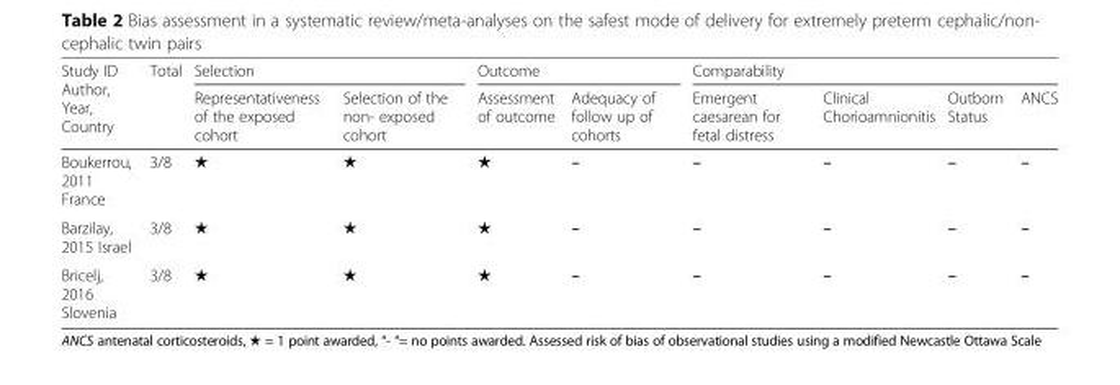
<table><thead><tr><td rowspan="2">Study ID Author, Year, Country</td><td rowspan="2">Total</td><td colspan="2">Selection</td><td colspan="2">Outcome</td><td colspan="4">Comparability</td></tr><tr><td>Representativeness of the exposed cohort</td><td>Selection of the non- exposed cohort</td><td>Assessment of outcome</td><td>Adequacy of follow up of cohorts</td><td>Emergent caesarean for fetal distress</td><td>Clinical Chorioamnionitis</td><td>Outborn Status</td><td>ANCS</td></tr></thead><tbody><tr><td>Boukerrou, 2011 France</td><td>3/8</td><td>★</td><td>★</td><td>★</td><td>–</td><td>–</td><td>–</td><td>–</td><td>–</td></tr><tr><td>Barzilay, 2015 Israel</td><td>3/8</td><td>★</td><td>★</td><td>★</td><td>–</td><td>–</td><td>–</td><td>–</td><td>–</td></tr><tr><td>Bricelj, 2016 Slovenia</td><td>3/8</td><td>★</td><td>★</td><td>★</td><td>–</td><td>–</td><td>–</td><td>–</td><td>–</td></tr></tbody></table>